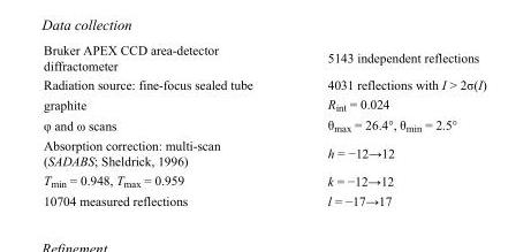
<table><tbody><tr><td>Bruker APEX CCD area-detector diffractometer</td><td>5143 independent reflections</td></tr><tr><td>Radiation source: fine-focus sealed tube</td><td>4031 reflections with I &gt; 2σ(I)</td></tr><tr><td>graphite</td><td>R<sub>int</sub> = 0.024</td></tr><tr><td>φ and ω scans</td><td>θ<sub>max</sub> = 26.4°, θ<sub>min</sub> = 2.5°</td></tr><tr><td>Absorption correction: multi-scan (SADABS; Sheldrick, 1996)</td><td>h = −12→12</td></tr><tr><td>T<sub>min</sub> = 0.948, T<sub>max</sub> = 0.959</td><td>k = −12→12</td></tr><tr><td>10704 measured reflections</td><td>l = −17→17</td></tr></tbody></table>